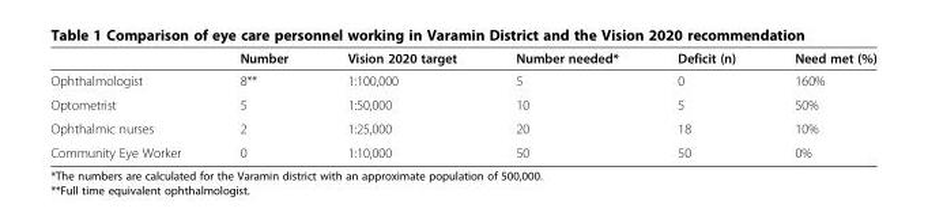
<table><thead><tr><td></td><td>Number</td><td>Vision 2020 target</td><td>Number needed*</td><td>Deficit (n)</td><td>Need met (%)</td></tr></thead><tbody><tr><td>Ophthalmologist</td><td>8**</td><td>1:100,000</td><td>5</td><td>0</td><td>160%</td></tr><tr><td>Optometrist</td><td>5</td><td>1:50,000</td><td>10</td><td>5</td><td>50%</td></tr><tr><td>Ophthalmic nurses</td><td>2</td><td>1:25,000</td><td>20</td><td>18</td><td>10%</td></tr><tr><td>Community Eye Worker</td><td>0</td><td>1:10,000</td><td>50</td><td>50</td><td>0%</td></tr></tbody></table>